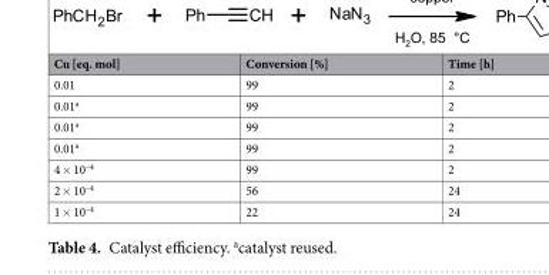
<table><thead><tr><td>Cu [eq. mol]</td><td>Conversion [%]</td><td>Time [h]</td></tr></thead><tbody><tr><td>0.01</td><td>99</td><td>2</td></tr><tr><td>0.01<sup>a</sup></td><td>99</td><td>2</td></tr><tr><td>0.01<sup>a</sup></td><td>99</td><td>2</td></tr><tr><td>0.01<sup>a</sup></td><td>99</td><td>2</td></tr><tr><td>4 × 10<sup>–4</sup></td><td>99</td><td>2</td></tr><tr><td>2 × 10<sup>–4</sup></td><td>56</td><td>24</td></tr><tr><td>1 × 10<sup>–4</sup></td><td>22</td><td>24</td></tr></tbody></table>